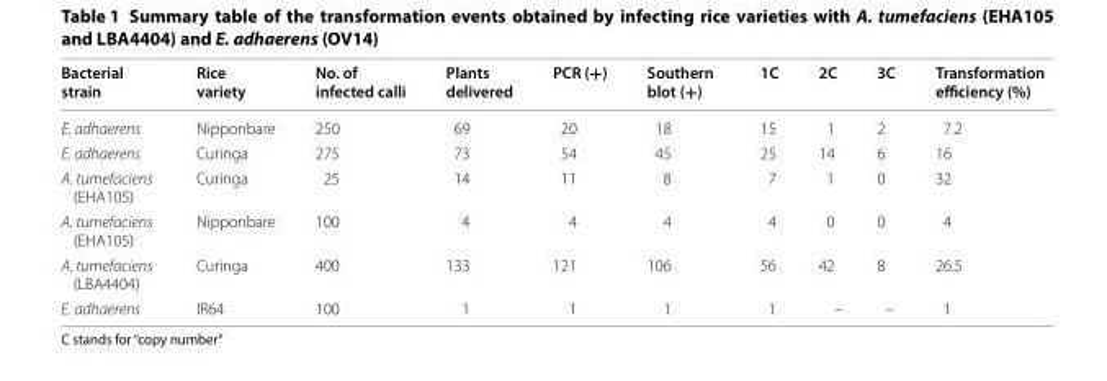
<table><thead><tr><td>Bacterial strain</td><td>Rice variety</td><td>No. of infected calli</td><td>Plants delivered</td><td>PCR (+)</td><td>Southern blot (+)</td><td>1C</td><td>2C</td><td>3C</td><td>Transformation efficiency (%)</td></tr></thead><tbody><tr><td>E. adhaerens</td><td>Nipponbare</td><td>250</td><td>69</td><td>20</td><td>18</td><td>15</td><td>1</td><td>2</td><td>7.2</td></tr><tr><td>E. adhaerens</td><td>Curinga</td><td>275</td><td>73</td><td>54</td><td>45</td><td>25</td><td>14</td><td>6</td><td>16</td></tr><tr><td>A. tumefaciens (EHA105)</td><td>Curinga</td><td>25</td><td>14</td><td>11</td><td>8</td><td>7</td><td>1</td><td>0</td><td>32</td></tr><tr><td>A. tumefaciens (EHA105)</td><td>Nipponbare</td><td>100</td><td>4</td><td>4</td><td>4</td><td>4</td><td>0</td><td>0</td><td>4</td></tr><tr><td>A. tumefaciens (LBA4404)</td><td>Curinga</td><td>400</td><td>133</td><td>121</td><td>106</td><td>56</td><td>42</td><td>8</td><td>26.5</td></tr><tr><td>E. adhaerens</td><td>IR64</td><td>100</td><td>1</td><td>1</td><td>1</td><td>1</td><td>–</td><td>–</td><td>1</td></tr></tbody></table>